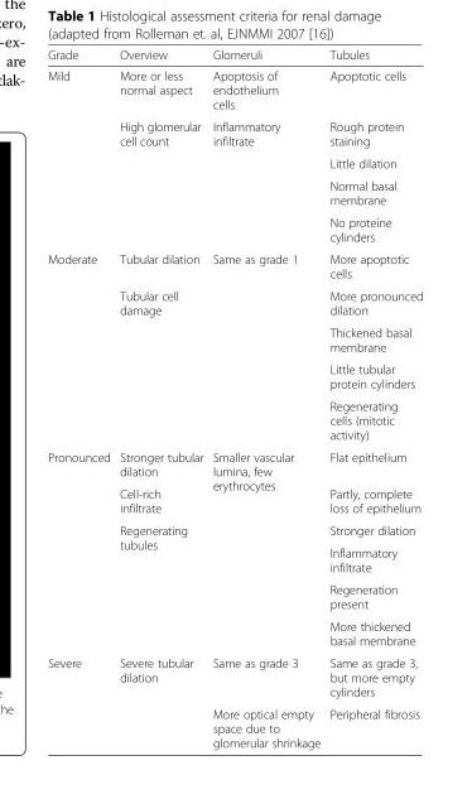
<table><thead><tr><td>Grade</td><td>Overview</td><td>Glomeruli</td><td>Tubules</td></tr></thead><tbody><tr><td rowspan="5">Mild</td><td>More or less normal aspect</td><td>Apoptosis of endothelium cells</td><td>Apoptotic cells</td></tr><tr><td rowspan="4">High glomerular cell count</td><td rowspan="4">Inflammatory infiltrate</td><td>Rough protein staining</td></tr><tr><td>Little dilation</td></tr><tr><td>Normal basal membrane</td></tr><tr><td>No proteine cylinders</td></tr><tr><td rowspan="5">Moderate</td><td>Tubular dilation</td><td rowspan="5">Same as grade 1</td><td>More apoptotic cells</td></tr><tr><td>Tubular cell damage</td><td>More pronounced dilation</td></tr><tr><td rowspan="3"></td><td>Thickened basal membrane</td></tr><tr><td>Little tubular protein cylinders</td></tr><tr><td>Regenerating cells (mitotic activity)</td></tr><tr><td rowspan="6">Pronounced</td><td>Stronger tubular dilation</td><td rowspan="6">Smaller vascular lumina, few erythrocytes</td><td>Flat epithelium</td></tr><tr><td>Cell-rich infiltrate</td><td>Partly, complete loss of epithelium</td></tr><tr><td rowspan="4">Regenerating tubules</td><td>Stronger dilation</td></tr><tr><td>Inflammatory infiltrate</td></tr><tr><td>Regeneration present</td></tr><tr><td>More thickened basal membrane</td></tr><tr><td rowspan="2">Severe</td><td rowspan="2">Severe tubular dilation</td><td>Same as grade 3</td><td>Same as grade 3, but more empty cylinders</td></tr><tr><td>More optical empty space due to glomerular shrinkage</td><td>Peripheral fibrosis</td></tr></tbody></table>